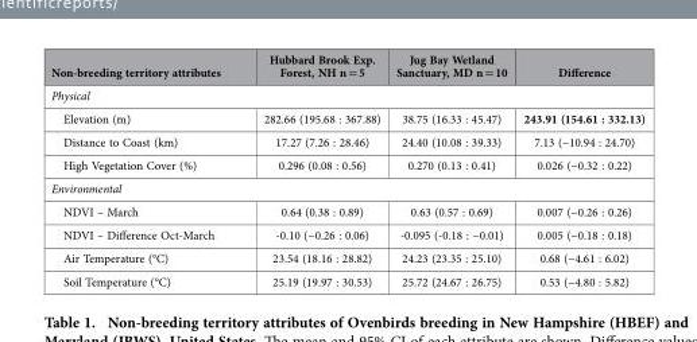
<table><thead><tr><td>Non-breeding territory attributes</td><td>Hubbard Brook Exp. Forest, NH n = 5</td><td>Jug Bay Wetland Sanctuary, MD n = 10</td><td>Difference</td></tr></thead><tbody><tr><td colspan="4">Physical</td></tr><tr><td>Elevation (m)</td><td>282.66 (195.68 : 367.88)</td><td>38.75 (16.33 : 45.47)</td><td>243.91 (154.61 : 332.13)</td></tr><tr><td>Distance to Coast (km)</td><td>17.27 (7.26 : 28.46)</td><td>24.40 (10.08 : 39.33)</td><td>7.13 (−10.94 : 24.70)</td></tr><tr><td>High Vegetation Cover (%)</td><td>0.296 (0.08 : 0.56)</td><td>0.270 (0.13 : 0.41)</td><td>0.026 (−0.32 : 0.22)</td></tr><tr><td colspan="4">Environmental</td></tr><tr><td>NDVI – March</td><td>0.64 (0.38 : 0.89)</td><td>0.63 (0.57 : 0.69)</td><td>0.007 (−0.26 : 0.26)</td></tr><tr><td>NDVI – Difference Oct-March</td><td>-0.10 (−0.26 : 0.06)</td><td>-0.095 (-0.18 : −0.01)</td><td>0.005 (−0.18 : 0.18)</td></tr><tr><td>Air Temperature (°C)</td><td>23.54 (18.16 : 28.82)</td><td>24.23 (23.35 : 25.10)</td><td>0.68 (−4.61 : 6.02)</td></tr><tr><td>Soil Temperature (°C)</td><td>25.19 (19.97 : 30.53)</td><td>25.72 (24.67 : 26.75)</td><td>0.53 (−4.80 : 5.82)</td></tr></tbody></table>